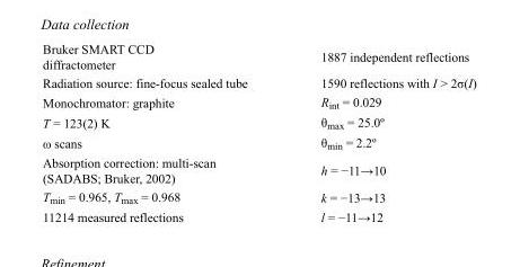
<table><tbody><tr><td>Bruker SMART CCD diffractometer</td><td>1887 independent reflections</td></tr><tr><td>Radiation source: fine-focus sealed tube</td><td>1590 reflections with I &gt; 2σ(I)</td></tr><tr><td>Monochromator: graphite</td><td>R<sub>int</sub> = 0.029</td></tr><tr><td>T = 123(2) K</td><td>θ<sub>max</sub> = 25.0º</td></tr><tr><td>ω scans</td><td>θ<sub>min</sub> = 2.2º</td></tr><tr><td>Absorption correction: multi-scan (SADABS; Bruker, 2002)</td><td>h = −11→10</td></tr><tr><td>T<sub>min</sub> = 0.965, T<sub>max</sub> = 0.968</td><td>k = −13→13</td></tr><tr><td>11214 measured reflections</td><td>l = −11→12</td></tr></tbody></table>